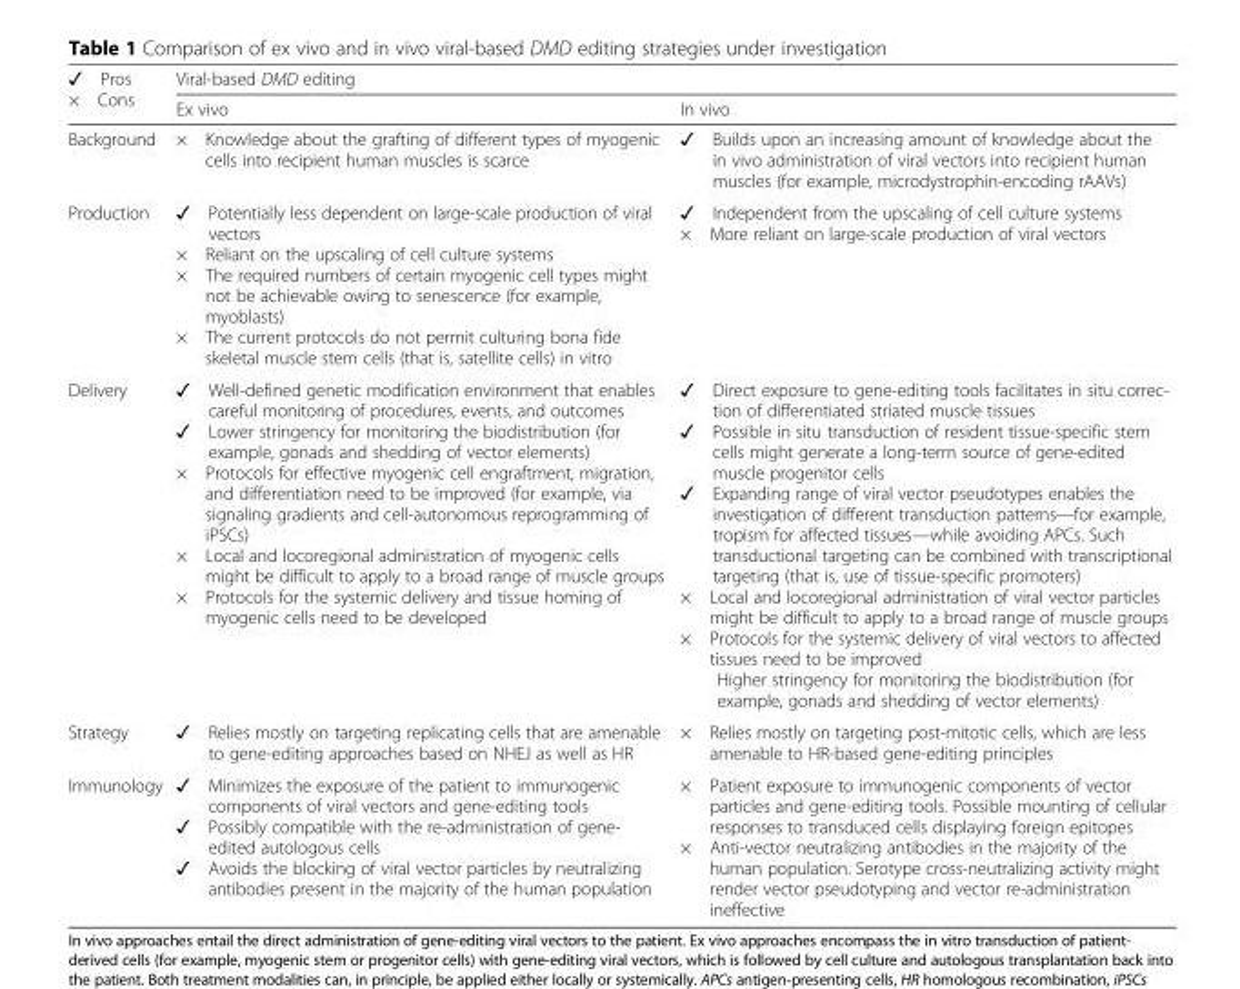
<table><thead><tr><td rowspan="2">✓ Pros × Cons</td><td colspan="2">Viral-based DMD editing</td></tr><tr><td>Ex vivo</td><td>In vivo</td></tr></thead><tbody><tr><td>Background</td><td>× Knowledge about the grafting of different types of myogenic cells into recipient human muscles is scarce</td><td>✓ Builds upon an increasing amount of knowledge about the in vivo administration of viral vectors into recipient human muscles (for example, microdystrophin-encoding rAAVs)</td></tr><tr><td>Production</td><td>✓ Potentially less dependent on large-scale production of viral vectors × Reliant on the upscaling of cell culture systems × The required numbers of certain myogenic cell types might not be achievable owing to senescence (for example, myoblasts) × The current protocols do not permit culturing bona fide skeletal muscle stem cells (that is, satellite cells) in vitro</td><td>✓ Independent from the upscaling of cell culture systems × More reliant on large-scale production of viral vectors</td></tr><tr><td>Delivery</td><td>✓ Well-defined genetic modification environment that enables careful monitoring of procedures, events, and outcomes ✓ Lower stringency for monitoring the biodistribution (for example, gonads and shedding of vector elements) × Protocols for effective myogenic cell engraftment, migration, and differentiation need to be improved (for example, via signaling gradients and cell-autonomous reprogramming of iPSCs) × Local and locoregional administration of myogenic cells might be difficult to apply to a broad range of muscle groups × Protocols for the systemic delivery and tissue homing of myogenic cells need to be developed</td><td>✓ Direct exposure to gene-editing tools facilitates in situ correc- tion of differentiated striated muscle tissues ✓ Possible in situ transduction of resident tissue-specific stem cells might generate a long-term source of gene-edited muscle progenitor cells ✓ Expanding range of viral vector pseudotypes enables the investigation of different transduction patterns—for example, tropism for affected tissues—while avoiding APCs. Such transductional targeting can be combined with transcriptional targeting (that is, use of tissue-specific promoters) × Local and locoregional administration of viral vector particles might be difficult to apply to a broad range of muscle groups × Protocols for the systemic delivery of viral vectors to affected tissues need to be improved Higher stringency for monitoring the biodistribution (for example, gonads and shedding of vector elements)</td></tr><tr><td>Strategy</td><td>✓ Relies mostly on targeting replicating cells that are amenable to gene-editing approaches based on NHEJ as well as HR</td><td>× Relies mostly on targeting post-mitotic cells, which are less amenable to HR-based gene-editing principles</td></tr><tr><td>Immunology</td><td>✓ Minimizes the exposure of the patient to immunogenic components of viral vectors and gene-editing tools ✓ Possibly compatible with the re-administration of gene- edited autologous cells ✓ Avoids the blocking of viral vector particles by neutralizing antibodies present in the majority of the human population</td><td>× Patient exposure to immunogenic components of vector particles and gene-editing tools. Possible mounting of cellular responses to transduced cells displaying foreign epitopes × Anti-vector neutralizing antibodies in the majority of the human population. Serotype cross-neutralizing activity might render vector pseudotyping and vector re-administration ineffective</td></tr></tbody></table>